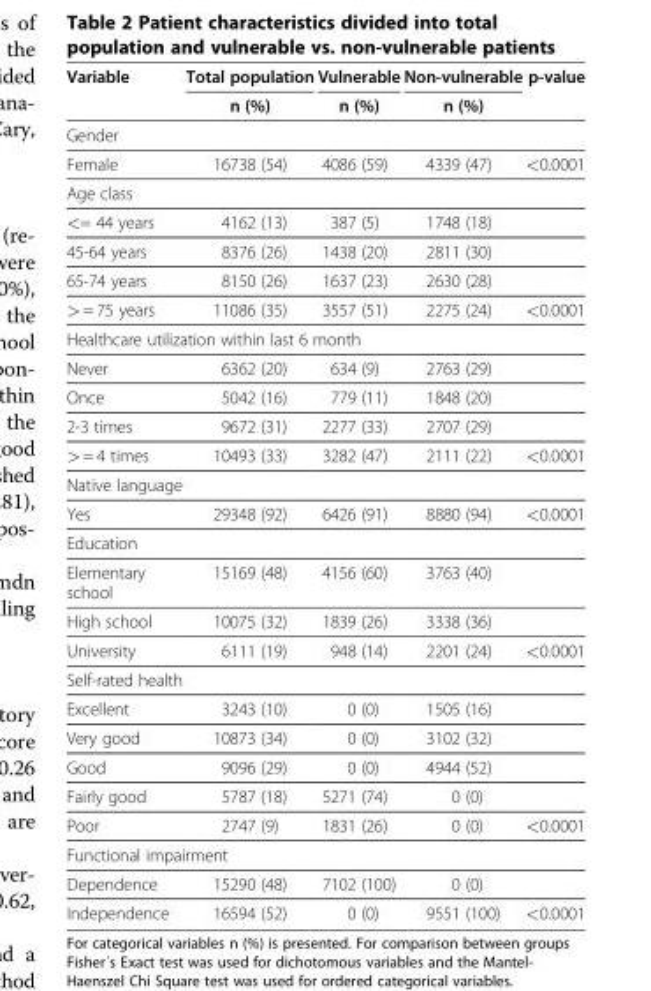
<table><thead><tr><td rowspan="2">Variable</td><td rowspan="2">Total population n (%)</td><td rowspan="2">Vulnerable n (%)</td><td rowspan="2">Non-vulnerable n (%)</td><td rowspan="2">p-value</td></tr><tr></tr></thead><tbody><tr><td colspan="5">Gender</td></tr><tr><td>Female</td><td>16738 (54)</td><td>4086 (59)</td><td>4339 (47)</td><td>&lt;0.0001</td></tr><tr><td colspan="5">Age class</td></tr><tr><td>&lt;= 44 years</td><td>4162 (13)</td><td>387 (5)</td><td>1748 (18)</td><td></td></tr><tr><td>45-64 years</td><td>8376 (26)</td><td>1438 (20)</td><td>2811 (30)</td><td></td></tr><tr><td>65-74 years</td><td>8150 (26)</td><td>1637 (23)</td><td>2630 (28)</td><td></td></tr><tr><td>&gt; = 75 years</td><td>11086 (35)</td><td>3557 (51)</td><td>2275 (24)</td><td>&lt;0.0001</td></tr><tr><td colspan="5">Healthcare utilization within last 6 month</td></tr><tr><td>Never</td><td>6362 (20)</td><td>634 (9)</td><td>2763 (29)</td><td></td></tr><tr><td>Once</td><td>5042 (16)</td><td>779 (11)</td><td>1848 (20)</td><td></td></tr><tr><td>2-3 times</td><td>9672 (31)</td><td>2277 (33)</td><td>2707 (29)</td><td></td></tr><tr><td>&gt; = 4 times</td><td>10493 (33)</td><td>3282 (47)</td><td>2111 (22)</td><td>&lt;0.0001</td></tr><tr><td colspan="5">Native language</td></tr><tr><td>Yes</td><td>29348 (92)</td><td>6426 (91)</td><td>8880 (94)</td><td>&lt;0.0001</td></tr><tr><td colspan="5">Education</td></tr><tr><td>Elementary school</td><td>15169 (48)</td><td>4156 (60)</td><td>3763 (40)</td><td></td></tr><tr><td>High school</td><td>10075 (32)</td><td>1839 (26)</td><td>3338 (36)</td><td></td></tr><tr><td>University</td><td>6111 (19)</td><td>948 (14)</td><td>2201 (24)</td><td>&lt;0.0001</td></tr><tr><td colspan="5">Self-rated health</td></tr><tr><td>Excellent</td><td>3243 (10)</td><td>0 (0)</td><td>1505 (16)</td><td></td></tr><tr><td>Very good</td><td>10873 (34)</td><td>0 (0)</td><td>3102 (32)</td><td></td></tr><tr><td>Good</td><td>9096 (29)</td><td>0 (0)</td><td>4944 (52)</td><td></td></tr><tr><td>Fairly good</td><td>5787 (18)</td><td>5271 (74)</td><td>0 (0)</td><td></td></tr><tr><td>Poor</td><td>2747 (9)</td><td>1831 (26)</td><td>0 (0)</td><td>&lt;0.0001</td></tr><tr><td colspan="5">Functional impairment</td></tr><tr><td>Dependence</td><td>15290 (48)</td><td>7102 (100)</td><td>0 (0)</td><td></td></tr><tr><td>Independence</td><td>16594 (52)</td><td>0 (0)</td><td>9551 (100)</td><td>&lt;0.0001</td></tr></tbody></table>